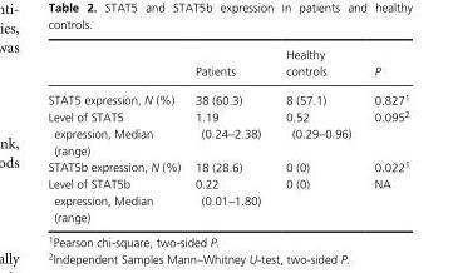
<table><thead><tr><td></td><td>Patients</td><td>Healthy controls</td><td>P</td></tr></thead><tbody><tr><td>STAT5 expression, N (%)</td><td>38 (60.3)</td><td>8 (57.1)</td><td>0.8271</td></tr><tr><td>Level of STAT5 expression, Median (range)</td><td>1.19 (0.24–2.38)</td><td>0.52 (0.29–0.96)</td><td>0.0952</td></tr><tr><td>STAT5b expression, N (%)</td><td>18 (28.6)</td><td>0 (0)</td><td>0.0221</td></tr><tr><td>Level of STAT5b expression, Median (range)</td><td>0.22 (0.01–1.80)</td><td>0 (0)</td><td>NA</td></tr></tbody></table>